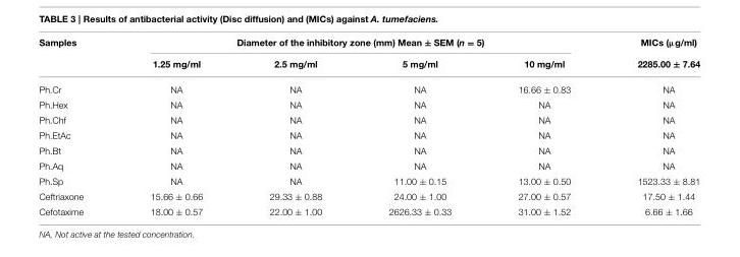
<table><thead><tr><td rowspan="2">Samples</td><td colspan="4">Diameter of the inhibitory zone (mm) Mean ± SEM (n = 5)</td><td rowspan="2">MICs (µg/ml) 2285.00 ± 7.64</td></tr><tr><td>1.25 mg/ml</td><td>2.5 mg/ml</td><td>5 mg/ml</td><td>10 mg/ml</td></tr></thead><tbody><tr><td>Ph.Cr</td><td>NA</td><td>NA</td><td>NA</td><td>16.66 ± 0.83</td><td>NA</td></tr><tr><td>Ph.Hex</td><td>NA</td><td>NA</td><td>NA</td><td>NA</td><td>NA</td></tr><tr><td>Ph.Chf</td><td>NA</td><td>NA</td><td>NA</td><td>NA</td><td>NA</td></tr><tr><td>Ph.EtAc</td><td>NA</td><td>NA</td><td>NA</td><td>NA</td><td>NA</td></tr><tr><td>Ph.Bt</td><td>NA</td><td>NA</td><td>NA</td><td>NA</td><td>NA</td></tr><tr><td>Ph.Aq</td><td>NA</td><td>NA</td><td>NA</td><td>NA</td><td>NA</td></tr><tr><td>Ph.Sp</td><td>NA</td><td>NA</td><td>11.00 ± 0.15</td><td>13.00 ± 0.50</td><td>1523.33 ± 8.81</td></tr><tr><td>Ceftriaxone</td><td>15.66 ± 0.66</td><td>29.33 ± 0.88</td><td>24.00 ± 1.00</td><td>27.00 ± 0.57</td><td>17.50 ± 1.44</td></tr><tr><td>Cefotaxime</td><td>18.00 ± 0.57</td><td>22.00 ± 1.00</td><td>2626.33 ± 0.33</td><td>31.00 ± 1.52</td><td>6.66 ± 1.66</td></tr></tbody></table>